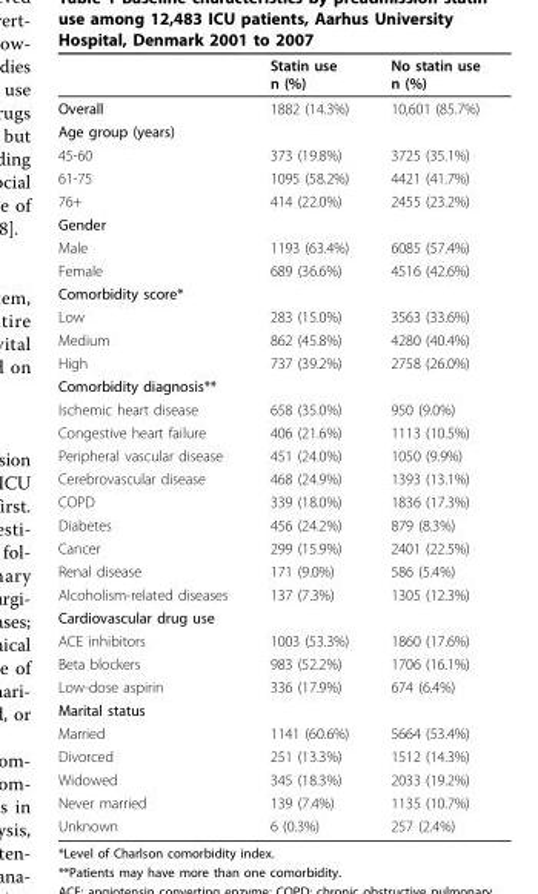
<table><thead><tr><td></td><td>Statin use n (%)</td><td>No statin use n (%)</td></tr></thead><tbody><tr><td>Overall</td><td>1882 (14.3%)</td><td>10,601 (85.7%)</td></tr><tr><td colspan="3">Age group (years)</td></tr><tr><td>45-60</td><td>373 (19.8%)</td><td>3725 (35.1%)</td></tr><tr><td>61-75</td><td>1095 (58.2%)</td><td>4421 (41.7%)</td></tr><tr><td>76+</td><td>414 (22.0%)</td><td>2455 (23.2%)</td></tr><tr><td colspan="3">Gender</td></tr><tr><td>Male</td><td>1193 (63.4%)</td><td>6085 (57.4%)</td></tr><tr><td>Female</td><td>689 (36.6%)</td><td>4516 (42.6%)</td></tr><tr><td colspan="3">Comorbidity score*</td></tr><tr><td>Low</td><td>283 (15.0%)</td><td>3563 (33.6%)</td></tr><tr><td>Medium</td><td>862 (45.8%)</td><td>4280 (40.4%)</td></tr><tr><td>High</td><td>737 (39.2%)</td><td>2758 (26.0%)</td></tr><tr><td colspan="3">Comorbidity diagnosis**</td></tr><tr><td>Ischemic heart disease</td><td>658 (35.0%)</td><td>950 (9.0%)</td></tr><tr><td>Congestive heart failure</td><td>406 (21.6%)</td><td>1113 (10.5%)</td></tr><tr><td>Peripheral vascular disease</td><td>451 (24.0%)</td><td>1050 (9.9%)</td></tr><tr><td>Cerebrovascular disease</td><td>468 (24.9%)</td><td>1393 (13.1%)</td></tr><tr><td>COPD</td><td>339 (18.0%)</td><td>1836 (17.3%)</td></tr><tr><td>Diabetes</td><td>456 (24.2%)</td><td>879 (8.3%)</td></tr><tr><td>Cancer</td><td>299 (15.9%)</td><td>2401 (22.5%)</td></tr><tr><td>Renal disease</td><td>171 (9.0%)</td><td>586 (5.4%)</td></tr><tr><td>Alcoholism-related diseases</td><td>137 (7.3%)</td><td>1305 (12.3%)</td></tr><tr><td colspan="3">Cardiovascular drug use</td></tr><tr><td>ACE inhibitors</td><td>1003 (53.3%)</td><td>1860 (17.6%)</td></tr><tr><td>Beta blockers</td><td>983 (52.2%)</td><td>1706 (16.1%)</td></tr><tr><td>Low-dose aspirin</td><td>336 (17.9%)</td><td>674 (6.4%)</td></tr><tr><td colspan="3">Marital status</td></tr><tr><td>Married</td><td>1141 (60.6%)</td><td>5664 (53.4%)</td></tr><tr><td>Divorced</td><td>251 (13.3%)</td><td>1512 (14.3%)</td></tr><tr><td>Widowed</td><td>345 (18.3%)</td><td>2033 (19.2%)</td></tr><tr><td>Never married</td><td>139 (7.4%)</td><td>1135 (10.7%)</td></tr><tr><td>Unknown</td><td>6 (0.3%)</td><td>257 (2.4%)</td></tr></tbody></table>